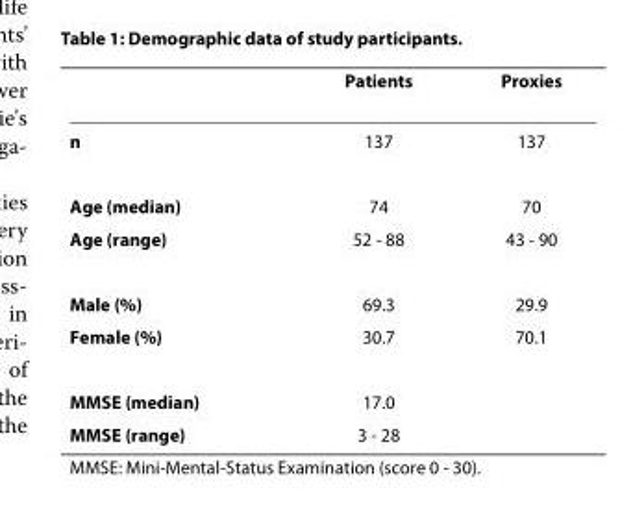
<table><thead><tr><td></td><td>Patients</td><td>Proxies</td></tr></thead><tbody><tr><td>n</td><td>137</td><td>137</td></tr><tr><td>Age (median)</td><td>74</td><td>70</td></tr><tr><td>Age (range)</td><td>52 - 88</td><td>43 - 90</td></tr><tr><td>Male (%)</td><td>69.3</td><td>29.9</td></tr><tr><td>Female (%)</td><td>30.7</td><td>70.1</td></tr><tr><td>MMSE (median)</td><td>17.0</td><td></td></tr><tr><td>MMSE (range)</td><td>3 - 28</td><td></td></tr></tbody></table>